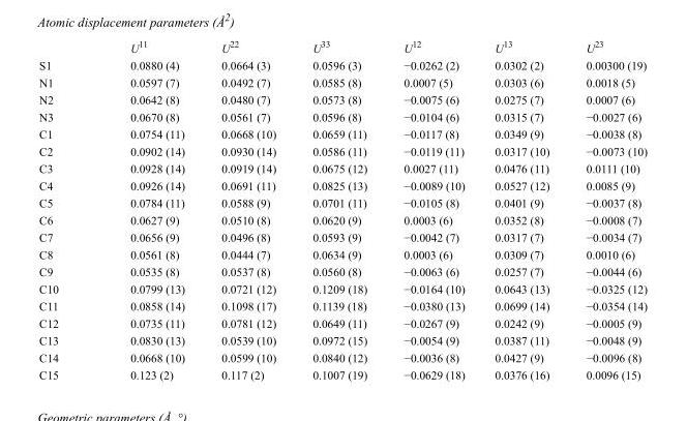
<table><thead><tr><td></td><td>U<sup>11</sup></td><td>U<sup>22</sup></td><td>U<sup>33</sup></td><td>U<sup>12</sup></td><td>U<sup>13</sup></td><td>U<sup>23</sup></td></tr></thead><tbody><tr><td>S1</td><td>0.0880 (4)</td><td>0.0664 (3)</td><td>0.0596 (3)</td><td>−0.0262 (2)</td><td>0.0302 (2)</td><td>0.00300 (19)</td></tr><tr><td>N1</td><td>0.0597 (7)</td><td>0.0492 (7)</td><td>0.0585 (8)</td><td>0.0007 (5)</td><td>0.0303 (6)</td><td>0.0018 (5)</td></tr><tr><td>N2</td><td>0.0642 (8)</td><td>0.0480 (7)</td><td>0.0573 (8)</td><td>−0.0075 (6)</td><td>0.0275 (7)</td><td>0.0007 (6)</td></tr><tr><td>N3</td><td>0.0670 (8)</td><td>0.0561 (7)</td><td>0.0596 (8)</td><td>−0.0104 (6)</td><td>0.0315 (7)</td><td>−0.0027 (6)</td></tr><tr><td>C1</td><td>0.0754 (11)</td><td>0.0668 (10)</td><td>0.0659 (11)</td><td>−0.0117 (8)</td><td>0.0349 (9)</td><td>−0.0038 (8)</td></tr><tr><td>C2</td><td>0.0902 (14)</td><td>0.0930 (14)</td><td>0.0586 (11)</td><td>−0.0119 (11)</td><td>0.0317 (10)</td><td>−0.0073 (10)</td></tr><tr><td>C3</td><td>0.0928 (14)</td><td>0.0919 (14)</td><td>0.0675 (12)</td><td>0.0027 (11)</td><td>0.0476 (11)</td><td>0.0111 (10)</td></tr><tr><td>C4</td><td>0.0926 (14)</td><td>0.0691 (11)</td><td>0.0825 (13)</td><td>−0.0089 (10)</td><td>0.0527 (12)</td><td>0.0085 (9)</td></tr><tr><td>C5</td><td>0.0784 (11)</td><td>0.0588 (9)</td><td>0.0701 (11)</td><td>−0.0105 (8)</td><td>0.0401 (9)</td><td>−0.0037 (8)</td></tr><tr><td>C6</td><td>0.0627 (9)</td><td>0.0510 (8)</td><td>0.0620 (9)</td><td>0.0003 (6)</td><td>0.0352 (8)</td><td>−0.0008 (7)</td></tr><tr><td>C7</td><td>0.0656 (9)</td><td>0.0496 (8)</td><td>0.0593 (9)</td><td>−0.0042 (7)</td><td>0.0317 (7)</td><td>−0.0034 (7)</td></tr><tr><td>C8</td><td>0.0561 (8)</td><td>0.0444 (7)</td><td>0.0634 (9)</td><td>0.0003 (6)</td><td>0.0309 (7)</td><td>0.0010 (6)</td></tr><tr><td>C9</td><td>0.0535 (8)</td><td>0.0537 (8)</td><td>0.0560 (8)</td><td>−0.0063 (6)</td><td>0.0257 (7)</td><td>−0.0044 (6)</td></tr><tr><td>C10</td><td>0.0799 (13)</td><td>0.0721 (12)</td><td>0.1209 (18)</td><td>−0.0164 (10)</td><td>0.0643 (13)</td><td>−0.0325 (12)</td></tr><tr><td>C11</td><td>0.0858 (14)</td><td>0.1098 (17)</td><td>0.1139 (18)</td><td>−0.0380 (13)</td><td>0.0699 (14)</td><td>−0.0354 (14)</td></tr><tr><td>C12</td><td>0.0735 (11)</td><td>0.0781 (12)</td><td>0.0649 (11)</td><td>−0.0267 (9)</td><td>0.0242 (9)</td><td>−0.0005 (9)</td></tr><tr><td>C13</td><td>0.0830 (13)</td><td>0.0539 (10)</td><td>0.0972 (15)</td><td>−0.0054 (9)</td><td>0.0387 (11)</td><td>−0.0048 (9)</td></tr><tr><td>C14</td><td>0.0668 (10)</td><td>0.0599 (10)</td><td>0.0840 (12)</td><td>−0.0036 (8)</td><td>0.0427 (9)</td><td>−0.0096 (8)</td></tr><tr><td>C15</td><td>0.123 (2)</td><td>0.117 (2)</td><td>0.1007 (19)</td><td>−0.0629 (18)</td><td>0.0376 (16)</td><td>0.0096 (15)</td></tr></tbody></table>